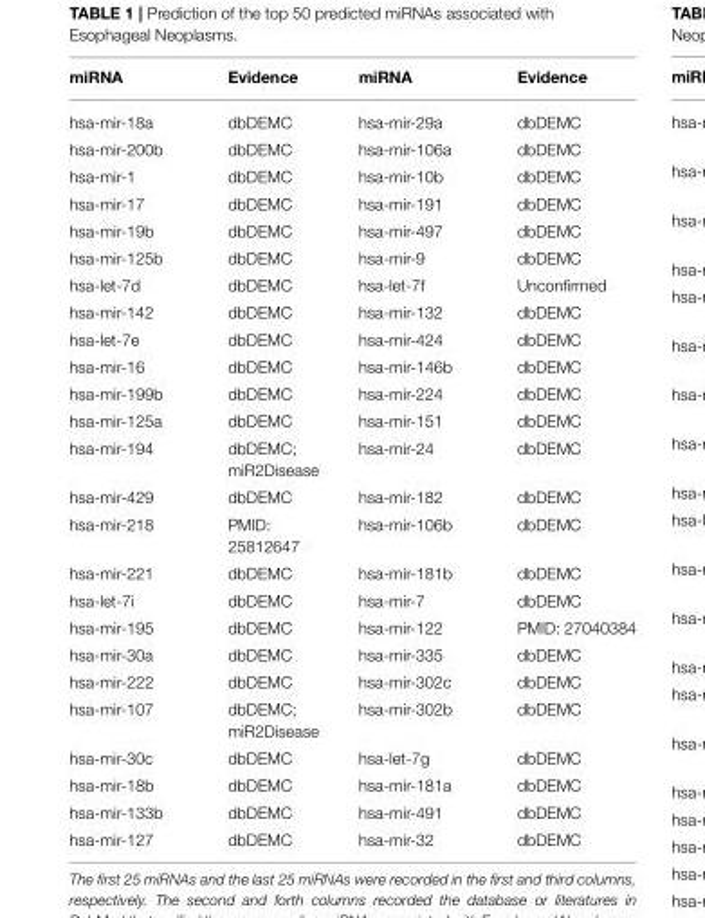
<table><thead><tr><td>miRNA</td><td>Evidence</td><td>miRNA</td><td>Evidence</td></tr></thead><tbody><tr><td>hsa-mir-18a</td><td>dbDEMC</td><td>hsa-mir-29a</td><td>dbDEMC</td></tr><tr><td>hsa-mir-200b</td><td>dbDEMC</td><td>hsa-mir-106a</td><td>dbDEMC</td></tr><tr><td>hsa-mir-1</td><td>dbDEMC</td><td>hsa-mir-10b</td><td>dbDEMC</td></tr><tr><td>hsa-mir-17</td><td>dbDEMC</td><td>hsa-mir-191</td><td>dbDEMC</td></tr><tr><td>hsa-mir-19b</td><td>dbDEMC</td><td>hsa-mir-497</td><td>dbDEMC</td></tr><tr><td>hsa-mir-125b</td><td>dbDEMC</td><td>hsa-mir-9</td><td>dbDEMC</td></tr><tr><td>hsa-let-7d</td><td>dbDEMC</td><td>hsa-let-7f</td><td>Unconfirmed</td></tr><tr><td>hsa-mir-142</td><td>dbDEMC</td><td>hsa-mir-132</td><td>dbDEMC</td></tr><tr><td>hsa-let-7e</td><td>dbDEMC</td><td>hsa-mir-424</td><td>dbDEMC</td></tr><tr><td>hsa-mir-16</td><td>dbDEMC</td><td>hsa-mir-146b</td><td>dbDEMC</td></tr><tr><td>hsa-mir-199b</td><td>dbDEMC</td><td>hsa-mir-224</td><td>dbDEMC</td></tr><tr><td>hsa-mir-125a</td><td>dbDEMC</td><td>hsa-mir-151</td><td>dbDEMC</td></tr><tr><td>hsa-mir-194</td><td>dbDEMC; miR2Disease</td><td>hsa-mir-24</td><td>dbDEMC</td></tr><tr><td>hsa-mir-429</td><td>dbDEMC</td><td>hsa-mir-182</td><td>dbDEMC</td></tr><tr><td>hsa-mir-218</td><td>PMID: 25812647</td><td>hsa-mir-106b</td><td>dbDEMC</td></tr><tr><td>hsa-mir-221</td><td>dbDEMC</td><td>hsa-mir-181b</td><td>dbDEMC</td></tr><tr><td>hsa-let-7i</td><td>dbDEMC</td><td>hsa-mir-7</td><td>dbDEMC</td></tr><tr><td>hsa-mir-195</td><td>dbDEMC</td><td>hsa-mir-122</td><td>PMID: 27040384</td></tr><tr><td>hsa-mir-30a</td><td>dbDEMC</td><td>hsa-mir-335</td><td>dbDEMC</td></tr><tr><td>hsa-mir-222</td><td>dbDEMC</td><td>hsa-mir-302c</td><td>dbDEMC</td></tr><tr><td>hsa-mir-107</td><td>dbDEMC; miR2Disease</td><td>hsa-mir-302b</td><td>dbDEMC</td></tr><tr><td>hsa-mir-30c</td><td>dbDEMC</td><td>hsa-let-7g</td><td>dbDEMC</td></tr><tr><td>hsa-mir-18b</td><td>dbDEMC</td><td>hsa-mir-181a</td><td>dbDEMC</td></tr><tr><td>hsa-mir-133b</td><td>dbDEMC</td><td>hsa-mir-491</td><td>dbDEMC</td></tr><tr><td>hsa-mir-127</td><td>dbDEMC</td><td>hsa-mir-32</td><td>dbDEMC</td></tr></tbody></table>